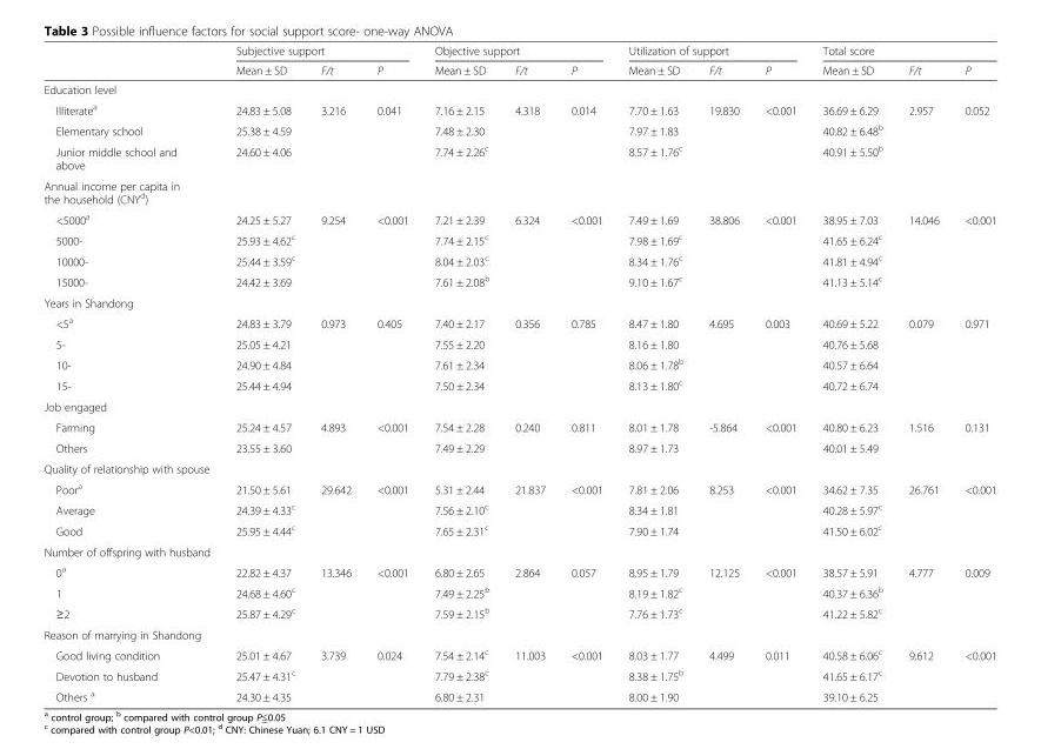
<table><thead><tr><td rowspan="2"></td><td colspan="3">Subjective support</td><td colspan="3">Objective support</td><td colspan="3">Utilization of support</td><td colspan="3">Total score</td></tr><tr><td>Mean ± SD</td><td>F/t</td><td>P</td><td>Mean ± SD</td><td>F/t</td><td>P</td><td>Mean ± SD</td><td>F/t</td><td>P</td><td>Mean ± SD</td><td>F/t</td><td>P</td></tr></thead><tbody><tr><td colspan="13">Education level</td></tr><tr><td>Illiterate<sup>a</sup></td><td>24.83 ± 5.08</td><td>3.216</td><td>0.041</td><td>7.16 ± 2.15</td><td>4.318</td><td>0.014</td><td>7.70 ± 1.63</td><td>19.830</td><td>&lt;0.001</td><td>36.69 ± 6.29</td><td>2.957</td><td>0.052</td></tr><tr><td>Elementary school</td><td>25.38 ± 4.59</td><td></td><td></td><td>7.48 ± 2.30</td><td></td><td></td><td>7.97 ± 1.83</td><td></td><td></td><td>40.82 ± 6.48<sup>b</sup></td><td></td><td></td></tr><tr><td>Junior middle school and above</td><td>24.60 ± 4.06</td><td></td><td></td><td>7.74 ± 2.26<sup>c</sup></td><td></td><td></td><td>8.57 ± 1.76<sup>c</sup></td><td></td><td></td><td>40.91 ± 5.50<sup>b</sup></td><td></td><td></td></tr><tr><td colspan="13">Annual income per capita in the household (CNY<sup>d</sup>)</td></tr><tr><td>&lt;5000<sup>a</sup></td><td>24.25 ± 5.27</td><td>9.254</td><td>&lt;0.001</td><td>7.21 ± 2.39</td><td>6.324</td><td>&lt;0.001</td><td>7.49 ± 1.69</td><td>38.806</td><td>&lt;0.001</td><td>38.95 ± 7.03</td><td>14.046</td><td>&lt;0.001</td></tr><tr><td>5000-</td><td>25.93 ± 4.62<sup>c</sup></td><td></td><td></td><td>7.74 ± 2.15<sup>c</sup></td><td></td><td></td><td>7.98 ± 1.69<sup>c</sup></td><td></td><td></td><td>41.65 ± 6.24<sup>c</sup></td><td></td><td></td></tr><tr><td>10000-</td><td>25.44 ± 3.59<sup>c</sup></td><td></td><td></td><td>8.04 ± 2.03<sup>c</sup></td><td></td><td></td><td>8.34 ± 1.76<sup>c</sup></td><td></td><td></td><td>41.81 ± 4.94<sup>c</sup></td><td></td><td></td></tr><tr><td>15000-</td><td>24.42 ± 3.69</td><td></td><td></td><td>7.61 ± 2.08<sup>b</sup></td><td></td><td></td><td>9.10 ± 1.67<sup>c</sup></td><td></td><td></td><td>41.13 ± 5.14<sup>c</sup></td><td></td><td></td></tr><tr><td colspan="13">Years in Shandong</td></tr><tr><td>&lt;5<sup>a</sup></td><td>24.83 ± 3.79</td><td>0.973</td><td>0.405</td><td>7.40 ± 2.17</td><td>0.356</td><td>0.785</td><td>8.47 ± 1.80</td><td>4.695</td><td>0.003</td><td>40.69 ± 5.22</td><td>0.079</td><td>0.971</td></tr><tr><td>5-</td><td>25.05 ± 4.21</td><td></td><td></td><td>7.55 ± 2.20</td><td></td><td></td><td>8.16 ± 1.80</td><td></td><td></td><td>40.76 ± 5.68</td><td></td><td></td></tr><tr><td>10-</td><td>24.90 ± 4.84</td><td></td><td></td><td>7.61 ± 2.34</td><td></td><td></td><td>8.06 ± 1.78<sup>b</sup></td><td></td><td></td><td>40.57 ± 6.64</td><td></td><td></td></tr><tr><td>15-</td><td>25.44 ± 4.94</td><td></td><td></td><td>7.50 ± 2.34</td><td></td><td></td><td>8.13 ± 1.80<sup>c</sup></td><td></td><td></td><td>40.72 ± 6.74</td><td></td><td></td></tr><tr><td colspan="13">Job engaged</td></tr><tr><td>Farming</td><td>25.24 ± 4.57</td><td>4.893</td><td>&lt;0.001</td><td>7.54 ± 2.28</td><td>0.240</td><td>0.811</td><td>8.01 ± 1.78</td><td>-5.864</td><td>&lt;0.001</td><td>40.80 ± 6.23</td><td>1.516</td><td>0.131</td></tr><tr><td>Others</td><td>23.55 ± 3.60</td><td></td><td></td><td>7.49 ± 2.29</td><td></td><td></td><td>8.97 ± 1.73</td><td></td><td></td><td>40.01 ± 5.49</td><td></td><td></td></tr><tr><td colspan="13">Quality of relationship with spouse</td></tr><tr><td>Poor<sup>a</sup></td><td>21.50 ± 5.61</td><td>29.642</td><td>&lt;0.001</td><td>5.31 ± 2.44</td><td>21.837</td><td>&lt;0.001</td><td>7.81 ± 2.06</td><td>8.253</td><td>&lt;0.001</td><td>34.62 ± 7.35</td><td>26.761</td><td>&lt;0.001</td></tr><tr><td>Average</td><td>24.39 ± 4.33<sup>c</sup></td><td></td><td></td><td>7.56 ± 2.10<sup>c</sup></td><td></td><td></td><td>8.34 ± 1.81</td><td></td><td></td><td>40.28 ± 5.97<sup>c</sup></td><td></td><td></td></tr><tr><td>Good</td><td>25.95 ± 4.44<sup>c</sup></td><td></td><td></td><td>7.65 ± 2.31<sup>c</sup></td><td></td><td></td><td>7.90 ± 1.74</td><td></td><td></td><td>41.50 ± 6.02<sup>c</sup></td><td></td><td></td></tr><tr><td colspan="13">Number of offspring with husband</td></tr><tr><td>0<sup>a</sup></td><td>22.82 ± 4.37</td><td>13.346</td><td>&lt;0.001</td><td>6.80 ± 2.65</td><td>2.864</td><td>0.057</td><td>8.95 ± 1.79</td><td>12.125</td><td>&lt;0.001</td><td>38.57 ± 5.91</td><td>4.777</td><td>0.009</td></tr><tr><td>1</td><td>24.68 ± 4.60<sup>c</sup></td><td></td><td></td><td>7.49 ± 2.25<sup>b</sup></td><td></td><td></td><td>8.19 ± 1.82<sup>c</sup></td><td></td><td></td><td>40.37 ± 6.36<sup>b</sup></td><td></td><td></td></tr><tr><td>≥2</td><td>25.87 ± 4.29<sup>c</sup></td><td></td><td></td><td>7.59 ± 2.15<sup>b</sup></td><td></td><td></td><td>7.76 ± 1.73<sup>c</sup></td><td></td><td></td><td>41.22 ± 5.82<sup>c</sup></td><td></td><td></td></tr><tr><td colspan="13">Reason of marrying in Shandong</td></tr><tr><td>Good living condition</td><td>25.01 ± 4.67</td><td>3.739</td><td>0.024</td><td>7.54 ± 2.14<sup>c</sup></td><td>11.003</td><td>&lt;0.001</td><td>8.03 ± 1.77</td><td>4.499</td><td>0.011</td><td>40.58 ± 6.06<sup>c</sup></td><td>9.612</td><td>&lt;0.001</td></tr><tr><td>Devotion to husband</td><td>25.47 ± 4.31<sup>c</sup></td><td></td><td></td><td>7.79 ± 2.38<sup>c</sup></td><td></td><td></td><td>8.38 ± 1.75<sup>b</sup></td><td></td><td></td><td>41.65 ± 6.17<sup>c</sup></td><td></td><td></td></tr><tr><td>Others <sup>a</sup></td><td>24.30 ± 4.35</td><td></td><td></td><td>6.80 ± 2.31</td><td></td><td></td><td>8.00 ± 1.90</td><td></td><td></td><td>39.10 ± 6.25</td><td></td><td></td></tr></tbody></table>